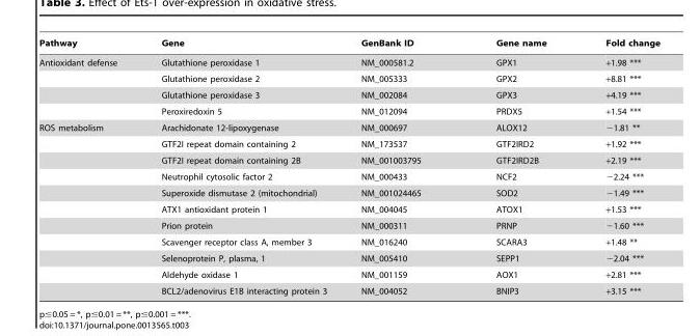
<table><thead><tr><td>Pathway</td><td>Gene</td><td>GenBank ID</td><td>Gene name</td><td>Fold change</td></tr></thead><tbody><tr><td rowspan="4">Antioxidant defense</td><td>Glutathione peroxidase 1</td><td>NM_000581.2</td><td>GPX1</td><td>+1.98 ***</td></tr><tr><td>Glutathione peroxidase 2</td><td>NM_005333</td><td>GPX2</td><td>+8.81 ***</td></tr><tr><td>Glutathione peroxidase 3</td><td>NM_002084</td><td>GPX3</td><td>+4.19 ***</td></tr><tr><td>Peroxiredoxin 5</td><td>NM_012094</td><td>PRDX5</td><td>+1.54 ***</td></tr><tr><td rowspan="11">ROS metabolism</td><td>Arachidonate 12-lipoxygenase</td><td>NM_000697</td><td>ALOX12</td><td>−1.81 **</td></tr><tr><td>GTF2I repeat domain containing 2</td><td>NM_173537</td><td>GTF2IRD2</td><td>+1.92 ***</td></tr><tr><td>GTF2I repeat domain containing 2B</td><td>NM_001003795</td><td>GTF2IRD2B</td><td>+2.19 ***</td></tr><tr><td>Neutrophil cytosolic factor 2</td><td>NM_000433</td><td>NCF2</td><td>−2.24 ***</td></tr><tr><td>Superoxide dismutase 2 (mitochondrial)</td><td>NM_001024465</td><td>SOD2</td><td>−1.49 ***</td></tr><tr><td>ATX1 antioxidant protein 1</td><td>NM_004045</td><td>ATOX1</td><td>+1.53 ***</td></tr><tr><td>Prion protein</td><td>NM_000311</td><td>PRNP</td><td>−1.60 ***</td></tr><tr><td>Scavenger receptor class A, member 3</td><td>NM_016240</td><td>SCARA3</td><td>+1.48 **</td></tr><tr><td>Selenoprotein P, plasma, 1</td><td>NM_005410</td><td>SEPP1</td><td>−2.04 ***</td></tr><tr><td>Aldehyde oxidase 1</td><td>NM_001159</td><td>AOX1</td><td>+2.81 ***</td></tr><tr><td>BCL2/adenovirus E1B interacting protein 3</td><td>NM_004052</td><td>BNIP3</td><td>+3.15 ***</td></tr></tbody></table>